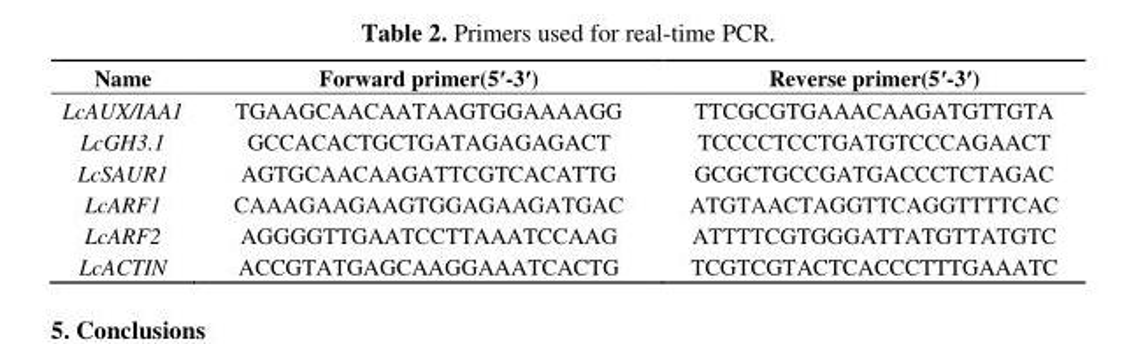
<table><thead><tr><td>Name</td><td>Forward primer(5′-3′)</td><td>Reverse primer(5′-3′)</td></tr></thead><tbody><tr><td>LcAUX/IAA1</td><td>TGAAGCAACAATAAGTGGAAAAGG</td><td>TTCGCGTGAAACAAGATGTTGTA</td></tr><tr><td>LcGH3.1</td><td>GCCACACTGCTGATAGAGAGACT</td><td>TCCCCTCCTGATGTCCCAGAACT</td></tr><tr><td>LcSAUR1</td><td>AGTGCAACAAGATTCGTCACATTG</td><td>GCGCTGCCGATGACCCTCTAGAC</td></tr><tr><td>LcARF1</td><td>CAAAGAAGAAGTGGAGAAGATGAC</td><td>ATGTAACTAGGTTCAGGTTTTCAC</td></tr><tr><td>LcARF2</td><td>AGGGGTTGAATCCTTAAATCCAAG</td><td>ATTTTCGTGGGATTATGTTATGTC</td></tr><tr><td>LcACTIN</td><td>ACCGTATGAGCAAGGAAATCACTG</td><td>TCGTCGTACTCACCCTTTGAAATC</td></tr></tbody></table>